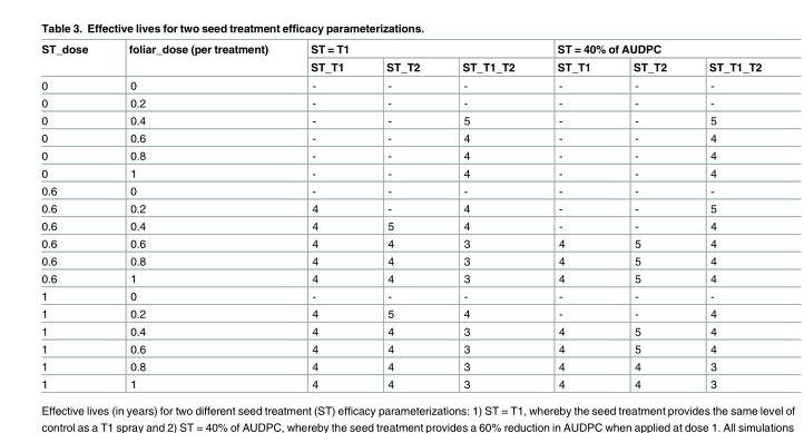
<table><thead><tr><td rowspan="2">ST_dose</td><td rowspan="2">foliar_dose (per treatment)</td><td colspan="3">ST = T1</td><td colspan="3">ST = 40% of AUDPC</td></tr><tr><td>ST_T1</td><td>ST_T2</td><td>ST_T1_T2</td><td>ST_T1</td><td>ST_T2</td><td>ST_T1_T2</td></tr></thead><tbody><tr><td>0</td><td>0</td><td>-</td><td>-</td><td>-</td><td>-</td><td>-</td><td>-</td></tr><tr><td>0</td><td>0.2</td><td>-</td><td>-</td><td>-</td><td>-</td><td>-</td><td>-</td></tr><tr><td>0</td><td>0.4</td><td>-</td><td>-</td><td>5</td><td>-</td><td>-</td><td>5</td></tr><tr><td>0</td><td>0.6</td><td>-</td><td>-</td><td>4</td><td>-</td><td>-</td><td>4</td></tr><tr><td>0</td><td>0.8</td><td>-</td><td>-</td><td>4</td><td>-</td><td>-</td><td>4</td></tr><tr><td>0</td><td>1</td><td>-</td><td>-</td><td>4</td><td>-</td><td>-</td><td>4</td></tr><tr><td>0.6</td><td>0</td><td>-</td><td>-</td><td>-</td><td>-</td><td>-</td><td>-</td></tr><tr><td>0.6</td><td>0.2</td><td>4</td><td>-</td><td>4</td><td>-</td><td>-</td><td>5</td></tr><tr><td>0.6</td><td>0.4</td><td>4</td><td>5</td><td>4</td><td>-</td><td>-</td><td>4</td></tr><tr><td>0.6</td><td>0.6</td><td>4</td><td>4</td><td>3</td><td>4</td><td>5</td><td>4</td></tr><tr><td>0.6</td><td>0.8</td><td>4</td><td>4</td><td>3</td><td>4</td><td>5</td><td>4</td></tr><tr><td>0.6</td><td>1</td><td>4</td><td>4</td><td>3</td><td>4</td><td>5</td><td>4</td></tr><tr><td>1</td><td>0</td><td>-</td><td>-</td><td>-</td><td>-</td><td>-</td><td>-</td></tr><tr><td>1</td><td>0.2</td><td>4</td><td>5</td><td>4</td><td>-</td><td>-</td><td>4</td></tr><tr><td>1</td><td>0.4</td><td>4</td><td>4</td><td>3</td><td>4</td><td>5</td><td>4</td></tr><tr><td>1</td><td>0.6</td><td>4</td><td>4</td><td>3</td><td>4</td><td>5</td><td>4</td></tr><tr><td>1</td><td>0.8</td><td>4</td><td>4</td><td>3</td><td>4</td><td>4</td><td>3</td></tr><tr><td>1</td><td>1</td><td>4</td><td>4</td><td>3</td><td>4</td><td>4</td><td>3</td></tr></tbody></table>